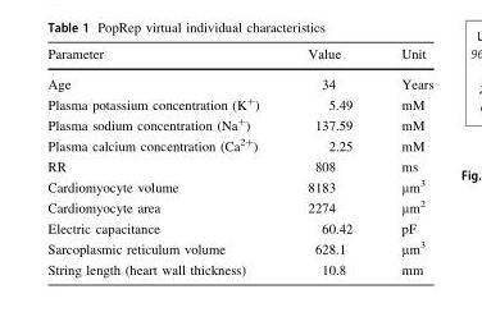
<table><thead><tr><td>Parameter</td><td>Value</td><td>Unit</td></tr></thead><tbody><tr><td>Age</td><td>34</td><td>Years</td></tr><tr><td>Plasma potassium concentration (K<sup>+</sup>)</td><td>5.49</td><td>mM</td></tr><tr><td>Plasma sodium concentration (Na<sup>+</sup>)</td><td>137.59</td><td>mM</td></tr><tr><td>Plasma calcium concentration (Ca<sup>2+</sup>)</td><td>2.25</td><td>mM</td></tr><tr><td>RR</td><td>808</td><td>ms</td></tr><tr><td>Cardiomyocyte volume</td><td>8183</td><td>µm<sup>3</sup></td></tr><tr><td>Cardiomyocyte area</td><td>2274</td><td>µm<sup>2</sup></td></tr><tr><td>Electric capacitance</td><td>60.42</td><td>pF</td></tr><tr><td>Sarcoplasmic reticulum volume</td><td>628.1</td><td>µm<sup>3</sup></td></tr><tr><td>String length (heart wall thickness)</td><td>10.8</td><td>mm</td></tr></tbody></table>